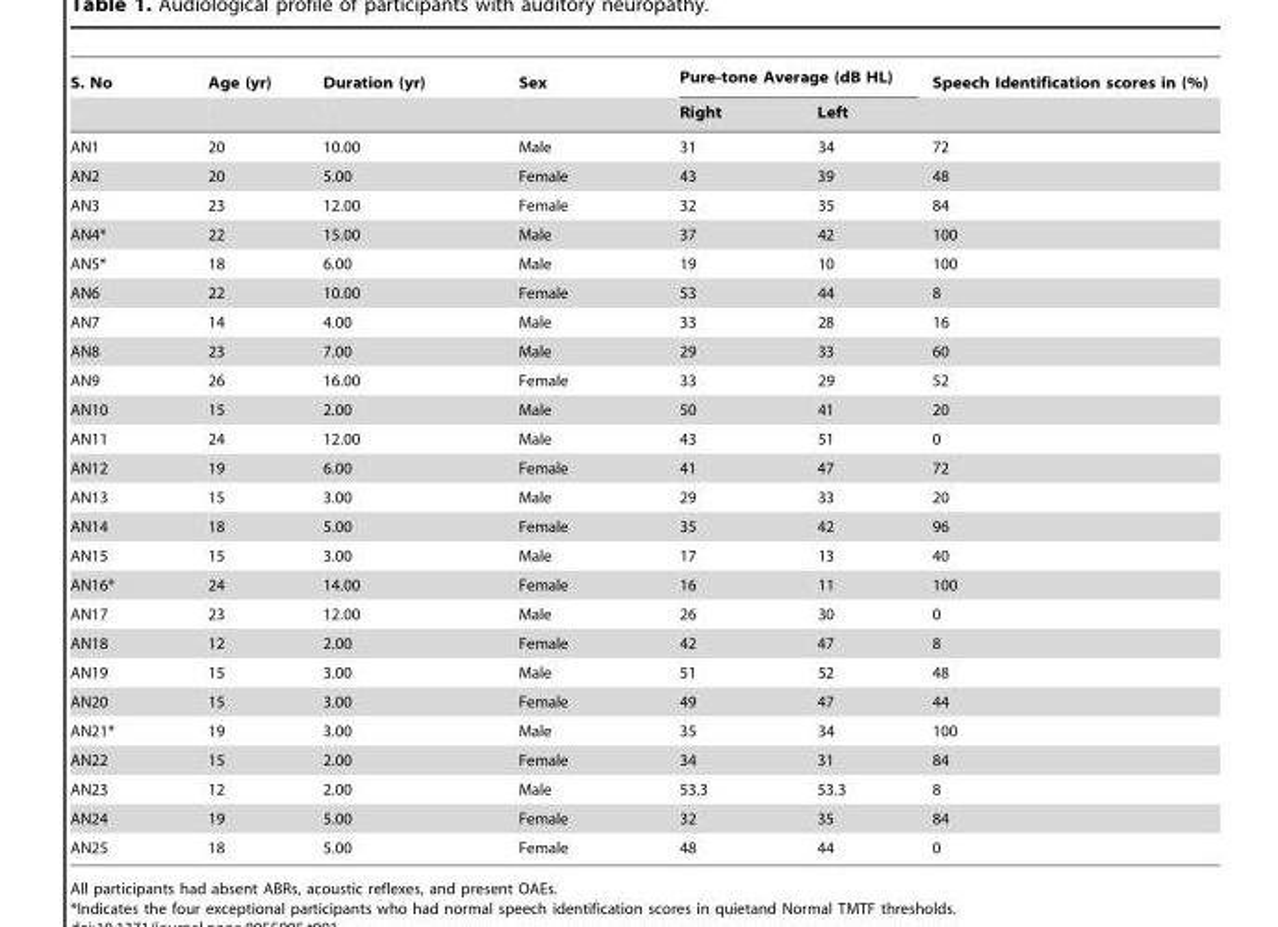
<table><thead><tr><td rowspan="2">S. No</td><td rowspan="2">Age (yr)</td><td rowspan="2">Duration (yr)</td><td rowspan="2">Sex</td><td colspan="2">Pure-tone Average (dB HL)</td><td rowspan="2">Speech Identification scores in (%)</td></tr><tr><td>Right</td><td>Left</td></tr></thead><tbody><tr><td>AN1</td><td>20</td><td>10.00</td><td>Male</td><td>31</td><td>34</td><td>72</td></tr><tr><td>AN2</td><td>20</td><td>5.00</td><td>Female</td><td>43</td><td>39</td><td>48</td></tr><tr><td>AN3</td><td>23</td><td>12.00</td><td>Female</td><td>32</td><td>35</td><td>84</td></tr><tr><td>AN4*</td><td>22</td><td>15.00</td><td>Male</td><td>37</td><td>42</td><td>100</td></tr><tr><td>AN5*</td><td>18</td><td>6.00</td><td>Male</td><td>19</td><td>10</td><td>100</td></tr><tr><td>AN6</td><td>22</td><td>10.00</td><td>Female</td><td>53</td><td>44</td><td>8</td></tr><tr><td>AN7</td><td>14</td><td>4.00</td><td>Male</td><td>33</td><td>28</td><td>16</td></tr><tr><td>AN8</td><td>23</td><td>7.00</td><td>Male</td><td>29</td><td>33</td><td>60</td></tr><tr><td>AN9</td><td>26</td><td>16.00</td><td>Female</td><td>33</td><td>29</td><td>52</td></tr><tr><td>AN10</td><td>15</td><td>2.00</td><td>Male</td><td>50</td><td>41</td><td>20</td></tr><tr><td>AN11</td><td>24</td><td>12.00</td><td>Male</td><td>43</td><td>51</td><td>0</td></tr><tr><td>AN12</td><td>19</td><td>6.00</td><td>Female</td><td>41</td><td>47</td><td>72</td></tr><tr><td>AN13</td><td>15</td><td>3.00</td><td>Male</td><td>29</td><td>33</td><td>20</td></tr><tr><td>AN14</td><td>18</td><td>5.00</td><td>Female</td><td>35</td><td>42</td><td>96</td></tr><tr><td>AN15</td><td>15</td><td>3.00</td><td>Male</td><td>17</td><td>13</td><td>40</td></tr><tr><td>AN16*</td><td>24</td><td>14.00</td><td>Female</td><td>16</td><td>11</td><td>100</td></tr><tr><td>AN17</td><td>23</td><td>12.00</td><td>Male</td><td>26</td><td>30</td><td>0</td></tr><tr><td>AN18</td><td>12</td><td>2.00</td><td>Female</td><td>42</td><td>47</td><td>8</td></tr><tr><td>AN19</td><td>15</td><td>3.00</td><td>Male</td><td>51</td><td>52</td><td>48</td></tr><tr><td>AN20</td><td>15</td><td>3.00</td><td>Female</td><td>49</td><td>47</td><td>44</td></tr><tr><td>AN21*</td><td>19</td><td>3.00</td><td>Male</td><td>35</td><td>34</td><td>100</td></tr><tr><td>AN22</td><td>15</td><td>2.00</td><td>Female</td><td>34</td><td>31</td><td>84</td></tr><tr><td>AN23</td><td>12</td><td>2.00</td><td>Male</td><td>53.3</td><td>53.3</td><td>8</td></tr><tr><td>AN24</td><td>19</td><td>5.00</td><td>Female</td><td>32</td><td>35</td><td>84</td></tr><tr><td>AN25</td><td>18</td><td>5.00</td><td>Female</td><td>48</td><td>44</td><td>0</td></tr></tbody></table>